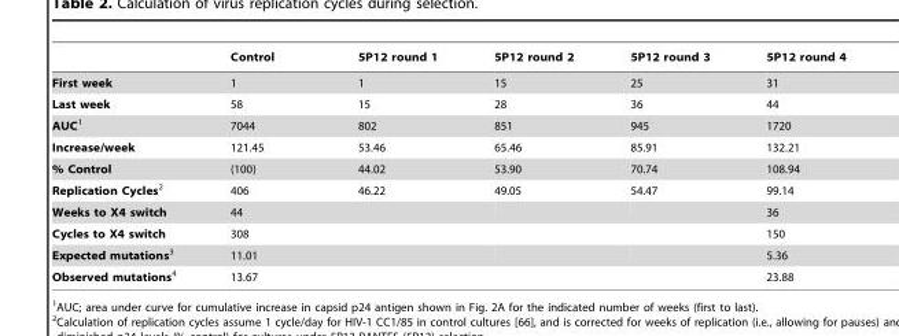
<table><thead><tr><td></td><td>Control</td><td>5P12 round 1</td><td>5P12 round 2</td><td>5P12 round 3</td><td>5P12 round 4</td></tr></thead><tbody><tr><td>First week</td><td>1</td><td>1</td><td>15</td><td>25</td><td>31</td></tr><tr><td>Last week</td><td>58</td><td>15</td><td>28</td><td>36</td><td>44</td></tr><tr><td>AUC1</td><td>7044</td><td>802</td><td>851</td><td>945</td><td>1720</td></tr><tr><td>Increase/week</td><td>121.45</td><td>53.46</td><td>65.46</td><td>85.91</td><td>132.21</td></tr><tr><td>% Control</td><td>(100)</td><td>44.02</td><td>53.90</td><td>70.74</td><td>108.94</td></tr><tr><td>Replication Cycles2</td><td>406</td><td>46.22</td><td>49.05</td><td>54.47</td><td>99.14</td></tr><tr><td>Weeks to X4 switch</td><td>44</td><td></td><td></td><td></td><td>36</td></tr><tr><td>Cycles to X4 switch</td><td>308</td><td></td><td></td><td></td><td>150</td></tr><tr><td>Expected mutations3</td><td>11.01</td><td></td><td></td><td></td><td>5.36</td></tr><tr><td>Observed mutations4</td><td>13.67</td><td></td><td></td><td></td><td>23.88</td></tr></tbody></table>